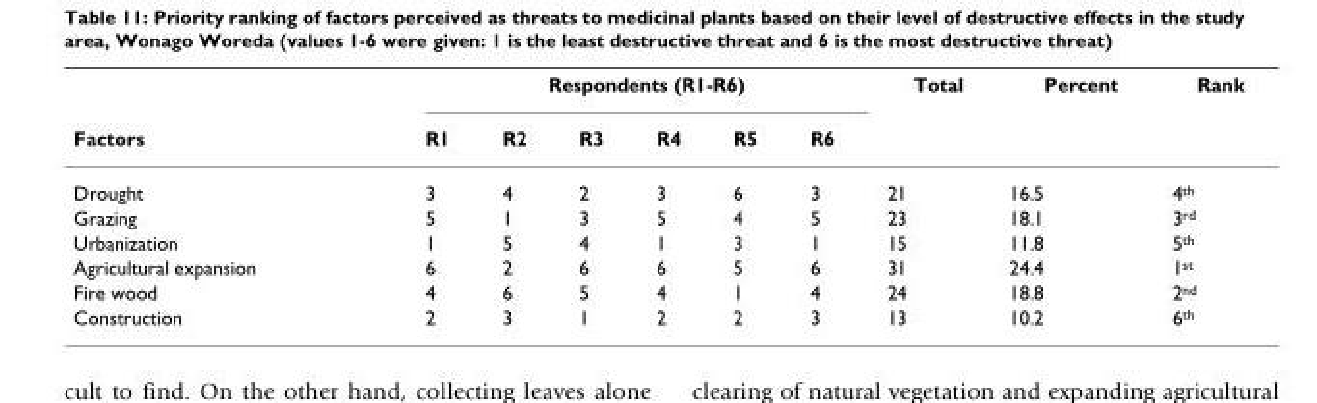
<table><thead><tr><td rowspan="2">Factors</td><td colspan="6">Respondents (R1-R6)</td><td rowspan="2">Total</td><td rowspan="2">Percent</td><td rowspan="2">Rank</td></tr><tr><td>R1</td><td>R2</td><td>R3</td><td>R4</td><td>R5</td><td>R6</td></tr></thead><tbody><tr><td>Drought</td><td>3</td><td>4</td><td>2</td><td>3</td><td>6</td><td>3</td><td>21</td><td>16.5</td><td>4<sup>th</sup></td></tr><tr><td>Grazing</td><td>5</td><td>1</td><td>3</td><td>5</td><td>4</td><td>5</td><td>23</td><td>18.1</td><td>3<sup>rd</sup></td></tr><tr><td>Urbanization</td><td>1</td><td>5</td><td>4</td><td>1</td><td>3</td><td>1</td><td>15</td><td>11.8</td><td>5<sup>th</sup></td></tr><tr><td>Agricultural expansion</td><td>6</td><td>2</td><td>6</td><td>6</td><td>5</td><td>6</td><td>31</td><td>24.4</td><td>1<sup>st</sup></td></tr><tr><td>Fire wood</td><td>4</td><td>6</td><td>5</td><td>4</td><td>1</td><td>4</td><td>24</td><td>18.8</td><td>2<sup>nd</sup></td></tr><tr><td>Construction</td><td>2</td><td>3</td><td>1</td><td>2</td><td>2</td><td>3</td><td>13</td><td>10.2</td><td>6<sup>th</sup></td></tr></tbody></table>